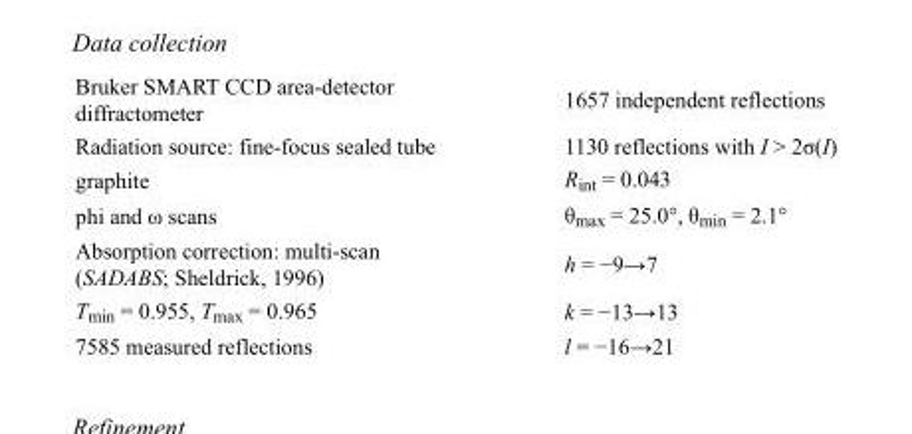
<table><tbody><tr><td>Bruker SMART CCD area-detector diffractometer</td><td>1657 independent reflections</td></tr><tr><td>Radiation source: fine-focus sealed tube</td><td>1130 reflections with I &gt; 2σ(I)</td></tr><tr><td>graphite</td><td>R<sub>int</sub> = 0.043</td></tr><tr><td>phi and ω scans</td><td>θ<sub>max</sub> = 25.0°, θ<sub>min</sub> = 2.1°</td></tr><tr><td>Absorption correction: multi-scan (SADABS; Sheldrick, 1996)</td><td>h = −9→7</td></tr><tr><td>T<sub>min</sub> = 0.955, T<sub>max</sub> = 0.965</td><td>k = −13→13</td></tr><tr><td>7585 measured reflections</td><td>l = −16→21</td></tr></tbody></table>